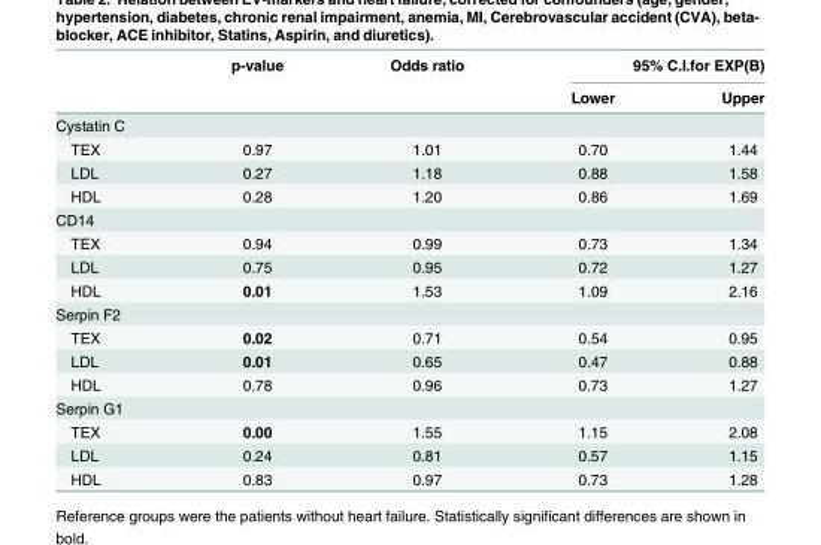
<table><thead><tr><td rowspan="2"></td><td rowspan="2">p-value</td><td rowspan="2">Odds ratio</td><td colspan="2">95% C.I.for EXP(B)</td></tr><tr><td>Lower</td><td>Upper</td></tr></thead><tbody><tr><td colspan="5">Cystatin C</td></tr><tr><td>TEX</td><td>0.97</td><td>1.01</td><td>0.70</td><td>1.44</td></tr><tr><td>LDL</td><td>0.27</td><td>1.18</td><td>0.88</td><td>1.58</td></tr><tr><td>HDL</td><td>0.28</td><td>1.20</td><td>0.86</td><td>1.69</td></tr><tr><td colspan="5">CD14</td></tr><tr><td>TEX</td><td>0.94</td><td>0.99</td><td>0.73</td><td>1.34</td></tr><tr><td>LDL</td><td>0.75</td><td>0.95</td><td>0.72</td><td>1.27</td></tr><tr><td>HDL</td><td>0.01</td><td>1.53</td><td>1.09</td><td>2.16</td></tr><tr><td colspan="5">Serpin F2</td></tr><tr><td>TEX</td><td>0.02</td><td>0.71</td><td>0.54</td><td>0.95</td></tr><tr><td>LDL</td><td>0.01</td><td>0.65</td><td>0.47</td><td>0.88</td></tr><tr><td>HDL</td><td>0.78</td><td>0.96</td><td>0.73</td><td>1.27</td></tr><tr><td colspan="5">Serpin G1</td></tr><tr><td>TEX</td><td>0.00</td><td>1.55</td><td>1.15</td><td>2.08</td></tr><tr><td>LDL</td><td>0.24</td><td>0.81</td><td>0.57</td><td>1.15</td></tr><tr><td>HDL</td><td>0.83</td><td>0.97</td><td>0.73</td><td>1.28</td></tr></tbody></table>